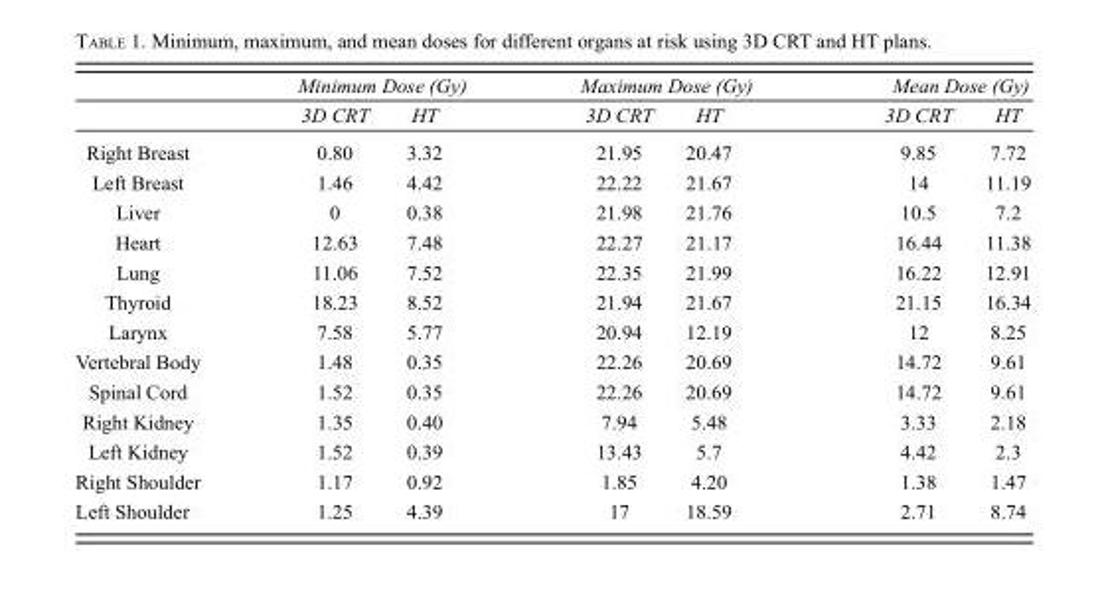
<table><thead><tr><td rowspan="2"></td><td colspan="2">Minimum Dose (Gy)</td><td colspan="2">Maximum Dose (Gy)</td><td colspan="2">Mean Dose (Gy)</td></tr><tr><td>3D CRT</td><td>HT</td><td>3D CRT</td><td>HT</td><td>3D CRT</td><td>HT</td></tr></thead><tbody><tr><td>Right Breast</td><td>0.80</td><td>3.32</td><td>21.95</td><td>20.47</td><td>9.85</td><td>7.72</td></tr><tr><td>Left Breast</td><td>1.46</td><td>4.42</td><td>22.22</td><td>21.67</td><td>14</td><td>11.19</td></tr><tr><td>Liver</td><td>0</td><td>0.38</td><td>21.98</td><td>21.76</td><td>10.5</td><td>7.2</td></tr><tr><td>Heart</td><td>12.63</td><td>7.48</td><td>22.27</td><td>21.17</td><td>16.44</td><td>11.38</td></tr><tr><td>Lung</td><td>11.06</td><td>7.52</td><td>22.35</td><td>21.99</td><td>16.22</td><td>12.91</td></tr><tr><td>Thyroid</td><td>18.23</td><td>8.52</td><td>21.94</td><td>21.67</td><td>21.15</td><td>16.34</td></tr><tr><td>Larynx</td><td>7.58</td><td>5.77</td><td>20.94</td><td>12.19</td><td>12</td><td>8.25</td></tr><tr><td>Vertebral Body</td><td>1.48</td><td>0.35</td><td>22.26</td><td>20.69</td><td>14.72</td><td>9.61</td></tr><tr><td>Spinal Cord</td><td>1.52</td><td>0.35</td><td>22.26</td><td>20.69</td><td>14.72</td><td>9.61</td></tr><tr><td>Right Kidney</td><td>1.35</td><td>0.40</td><td>7.94</td><td>5.48</td><td>3.33</td><td>2.18</td></tr><tr><td>Left Kidney</td><td>1.52</td><td>0.39</td><td>13.43</td><td>5.7</td><td>4.42</td><td>2.3</td></tr><tr><td>Right Shoulder</td><td>1.17</td><td>0.92</td><td>1.85</td><td>4.20</td><td>1.38</td><td>1.47</td></tr><tr><td>Left Shoulder</td><td>1.25</td><td>4.39</td><td>17</td><td>18.59</td><td>2.71</td><td>8.74</td></tr></tbody></table>